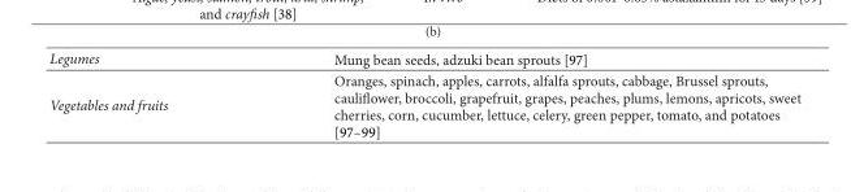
<table><tbody><tr><td>Legumes</td><td>Mung bean seeds, adzuki bean sprouts [97]</td></tr><tr><td>Vegetables and fruits</td><td>Oranges, spinach, apples, carrots, alfalfa sprouts, cabbage, Brussel sprouts, cauliflower, broccoli, grapefruit, grapes, peaches, plums, lemons, apricots, sweet cherries, corn, cucumber, lettuce, celery, green pepper, tomato, and potatoes [97–99]</td></tr></tbody></table>